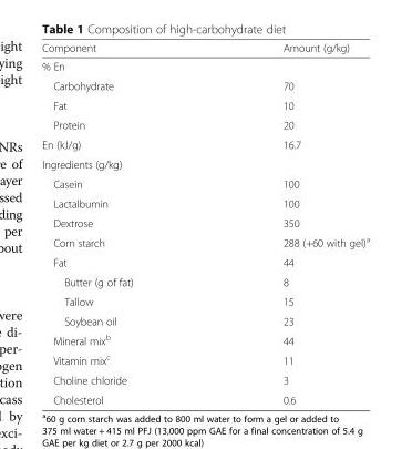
<table><thead><tr><td>Component</td><td>Amount (g/kg)</td></tr></thead><tbody><tr><td colspan="2">% En</td></tr><tr><td>Carbohydrate</td><td>70</td></tr><tr><td>Fat</td><td>10</td></tr><tr><td>Protein</td><td>20</td></tr><tr><td>En (kJ/g)</td><td>16.7</td></tr><tr><td colspan="2">Ingredients (g/kg)</td></tr><tr><td>Casein</td><td>100</td></tr><tr><td>Lactalbumin</td><td>100</td></tr><tr><td>Dextrose</td><td>350</td></tr><tr><td>Corn starch</td><td>288 (+60 with gel)<sup>a</sup></td></tr><tr><td>Fat</td><td>44</td></tr><tr><td>Butter (g of fat)</td><td>8</td></tr><tr><td>Tallow</td><td>15</td></tr><tr><td>Soybean oil</td><td>23</td></tr><tr><td>Mineral mix<sup>b</sup></td><td>44</td></tr><tr><td>Vitamin mix<sup>c</sup></td><td>11</td></tr><tr><td>Choline chloride</td><td>3</td></tr><tr><td>Cholesterol</td><td>0.6</td></tr></tbody></table>